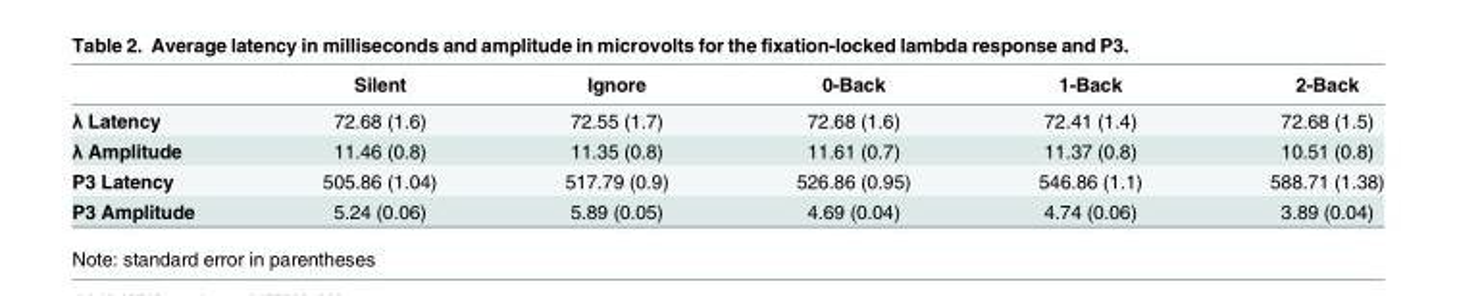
<table><thead><tr><td></td><td>Silent</td><td>Ignore</td><td>0-Back</td><td>1-Back</td><td>2-Back</td></tr></thead><tbody><tr><td>λ Latency</td><td>72.68 (1.6)</td><td>72.55 (1.7)</td><td>72.68 (1.6)</td><td>72.41 (1.4)</td><td>72.68 (1.5)</td></tr><tr><td>λ Amplitude</td><td>11.46 (0.8)</td><td>11.35 (0.8)</td><td>11.61 (0.7)</td><td>11.37 (0.8)</td><td>10.51 (0.8)</td></tr><tr><td>P3 Latency</td><td>505.86 (1.04)</td><td>517.79 (0.9)</td><td>526.86 (0.95)</td><td>546.86 (1.1)</td><td>588.71 (1.38)</td></tr><tr><td>P3 Amplitude</td><td>5.24 (0.06)</td><td>5.89 (0.05)</td><td>4.69 (0.04)</td><td>4.74 (0.06)</td><td>3.89 (0.04)</td></tr></tbody></table>